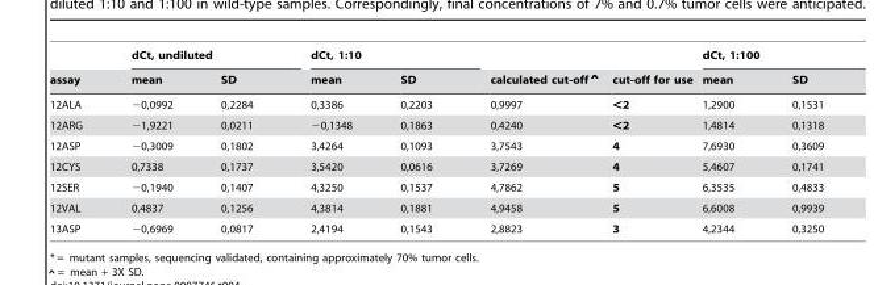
<table><thead><tr><td rowspan="2">assay</td><td colspan="2">dCt, undiluted</td><td colspan="2">dCt, 1:10</td><td rowspan="2">calculated cut-offˆ</td><td rowspan="2">cut-off for use</td><td colspan="2">dCt, 1:100</td></tr><tr><td>mean</td><td>SD</td><td>mean</td><td>SD</td><td>mean</td><td>SD</td></tr></thead><tbody><tr><td>12ALA</td><td>−0,0992</td><td>0,2284</td><td>0,3386</td><td>0,2203</td><td>0,9997</td><td>&lt;2</td><td>1,2900</td><td>0,1531</td></tr><tr><td>12ARG</td><td>−1,9221</td><td>0,0211</td><td>−0,1348</td><td>0,1863</td><td>0,4240</td><td>&lt;2</td><td>1,4814</td><td>0,1318</td></tr><tr><td>12ASP</td><td>−0,3009</td><td>0,1802</td><td>3,4264</td><td>0,1093</td><td>3,7543</td><td>4</td><td>7,6930</td><td>0,3609</td></tr><tr><td>12CYS</td><td>0,7338</td><td>0,1737</td><td>3,5420</td><td>0,0616</td><td>3,7269</td><td>4</td><td>5,4607</td><td>0,1741</td></tr><tr><td>12SER</td><td>−0,1940</td><td>0,1407</td><td>4,3250</td><td>0,1537</td><td>4,7862</td><td>5</td><td>6,3535</td><td>0,4833</td></tr><tr><td>12VAL</td><td>0,4837</td><td>0,1256</td><td>4,3814</td><td>0,1881</td><td>4,9458</td><td>5</td><td>6,6008</td><td>0,9939</td></tr><tr><td>13ASP</td><td>−0,6969</td><td>0,0817</td><td>2,4194</td><td>0,1543</td><td>2,8823</td><td>3</td><td>4,2344</td><td>0,3250</td></tr></tbody></table>